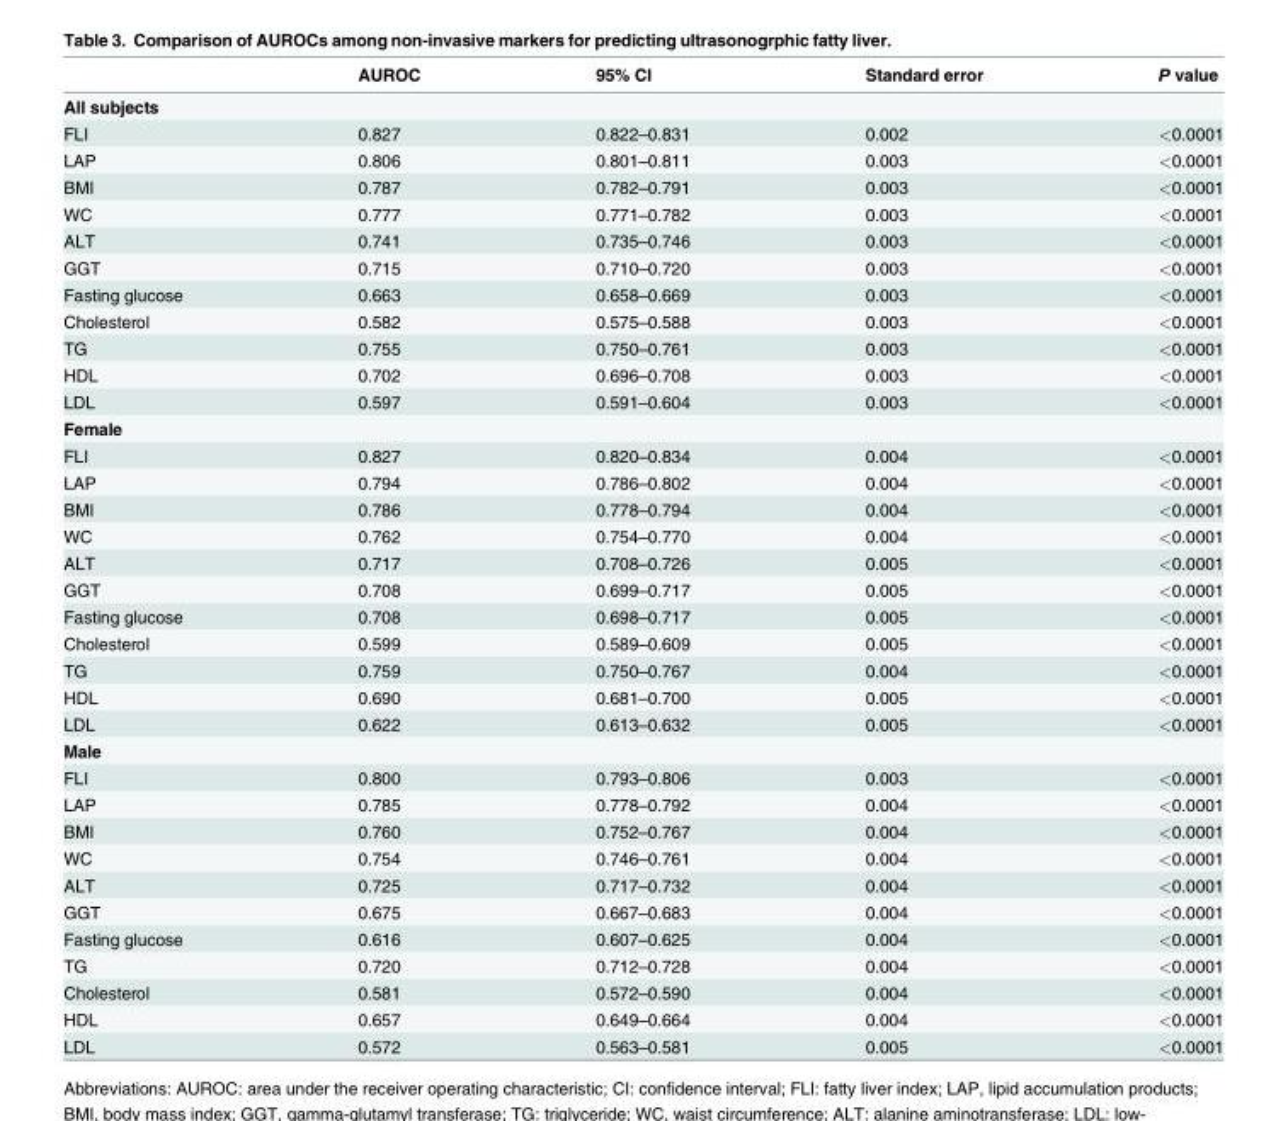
<table><thead><tr><td></td><td>AUROC</td><td>95% CI</td><td>Standard error</td><td>P value</td></tr></thead><tbody><tr><td colspan="5">All subjects</td></tr><tr><td>FLI</td><td>0.827</td><td>0.822–0.831</td><td>0.002</td><td>&lt;0.0001</td></tr><tr><td>LAP</td><td>0.806</td><td>0.801–0.811</td><td>0.003</td><td>&lt;0.0001</td></tr><tr><td>BMI</td><td>0.787</td><td>0.782–0.791</td><td>0.003</td><td>&lt;0.0001</td></tr><tr><td>WC</td><td>0.777</td><td>0.771–0.782</td><td>0.003</td><td>&lt;0.0001</td></tr><tr><td>ALT</td><td>0.741</td><td>0.735–0.746</td><td>0.003</td><td>&lt;0.0001</td></tr><tr><td>GGT</td><td>0.715</td><td>0.710–0.720</td><td>0.003</td><td>&lt;0.0001</td></tr><tr><td>Fasting glucose</td><td>0.663</td><td>0.658–0.669</td><td>0.003</td><td>&lt;0.0001</td></tr><tr><td>Cholesterol</td><td>0.582</td><td>0.575–0.588</td><td>0.003</td><td>&lt;0.0001</td></tr><tr><td>TG</td><td>0.755</td><td>0.750–0.761</td><td>0.003</td><td>&lt;0.0001</td></tr><tr><td>HDL</td><td>0.702</td><td>0.696–0.708</td><td>0.003</td><td>&lt;0.0001</td></tr><tr><td>LDL</td><td>0.597</td><td>0.591–0.604</td><td>0.003</td><td>&lt;0.0001</td></tr><tr><td colspan="5">Female</td></tr><tr><td>FLI</td><td>0.827</td><td>0.820–0.834</td><td>0.004</td><td>&lt;0.0001</td></tr><tr><td>LAP</td><td>0.794</td><td>0.786–0.802</td><td>0.004</td><td>&lt;0.0001</td></tr><tr><td>BMI</td><td>0.786</td><td>0.778–0.794</td><td>0.004</td><td>&lt;0.0001</td></tr><tr><td>WC</td><td>0.762</td><td>0.754–0.770</td><td>0.004</td><td>&lt;0.0001</td></tr><tr><td>ALT</td><td>0.717</td><td>0.708–0.726</td><td>0.005</td><td>&lt;0.0001</td></tr><tr><td>GGT</td><td>0.708</td><td>0.699–0.717</td><td>0.005</td><td>&lt;0.0001</td></tr><tr><td>Fasting glucose</td><td>0.708</td><td>0.698–0.717</td><td>0.005</td><td>&lt;0.0001</td></tr><tr><td>Cholesterol</td><td>0.599</td><td>0.589–0.609</td><td>0.005</td><td>&lt;0.0001</td></tr><tr><td>TG</td><td>0.759</td><td>0.750–0.767</td><td>0.004</td><td>&lt;0.0001</td></tr><tr><td>HDL</td><td>0.690</td><td>0.681–0.700</td><td>0.005</td><td>&lt;0.0001</td></tr><tr><td>LDL</td><td>0.622</td><td>0.613–0.632</td><td>0.005</td><td>&lt;0.0001</td></tr><tr><td colspan="5">Male</td></tr><tr><td>FLI</td><td>0.800</td><td>0.793–0.806</td><td>0.003</td><td>&lt;0.0001</td></tr><tr><td>LAP</td><td>0.785</td><td>0.778–0.792</td><td>0.004</td><td>&lt;0.0001</td></tr><tr><td>BMI</td><td>0.760</td><td>0.752–0.767</td><td>0.004</td><td>&lt;0.0001</td></tr><tr><td>WC</td><td>0.754</td><td>0.746–0.761</td><td>0.004</td><td>&lt;0.0001</td></tr><tr><td>ALT</td><td>0.725</td><td>0.717–0.732</td><td>0.004</td><td>&lt;0.0001</td></tr><tr><td>GGT</td><td>0.675</td><td>0.667–0.683</td><td>0.004</td><td>&lt;0.0001</td></tr><tr><td>Fasting glucose</td><td>0.616</td><td>0.607–0.625</td><td>0.004</td><td>&lt;0.0001</td></tr><tr><td>TG</td><td>0.720</td><td>0.712–0.728</td><td>0.004</td><td>&lt;0.0001</td></tr><tr><td>Cholesterol</td><td>0.581</td><td>0.572–0.590</td><td>0.004</td><td>&lt;0.0001</td></tr><tr><td>HDL</td><td>0.657</td><td>0.649–0.664</td><td>0.004</td><td>&lt;0.0001</td></tr><tr><td>LDL</td><td>0.572</td><td>0.563–0.581</td><td>0.005</td><td>&lt;0.0001</td></tr></tbody></table>